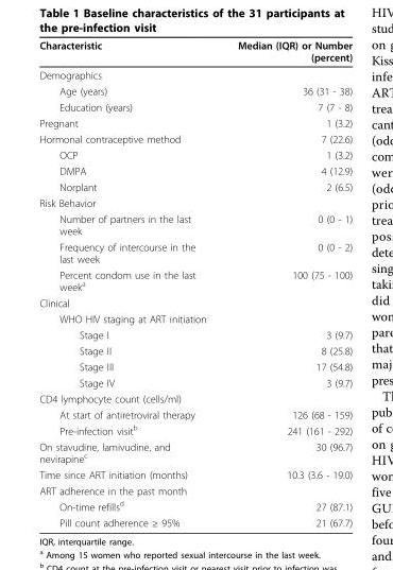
<table><thead><tr><td>Characteristic</td><td>Median (IQR) or Number (percent)</td></tr></thead><tbody><tr><td colspan="2">Demographics</td></tr><tr><td>Age (years)</td><td>36 (31 - 38)</td></tr><tr><td>Education (years)</td><td>7 (7 - 8)</td></tr><tr><td>Pregnant</td><td>1 (3.2)</td></tr><tr><td>Hormonal contraceptive method</td><td>7 (22.6)</td></tr><tr><td>OCP</td><td>1 (3.2)</td></tr><tr><td>DMPA</td><td>4 (12.9)</td></tr><tr><td>Norplant</td><td>2 (6.5)</td></tr><tr><td colspan="2">Risk Behavior</td></tr><tr><td>Number of partners in the last week</td><td>0 (0 - 1)</td></tr><tr><td>Frequency of intercourse in the last week</td><td>0 (0 - 2)</td></tr><tr><td>Percent condom use in the last week<sup>a</sup></td><td>100 (75 - 100)</td></tr><tr><td colspan="2">Clinical</td></tr><tr><td colspan="2">WHO HIV staging at ART initiation</td></tr><tr><td>Stage I</td><td>3 (9.7)</td></tr><tr><td>Stage II</td><td>8 (25.8)</td></tr><tr><td>Stage III</td><td>17 (54.8)</td></tr><tr><td>Stage IV</td><td>3 (9.7)</td></tr><tr><td colspan="2">CD4 lymphocyte count (cells/ml)</td></tr><tr><td>At start of antiretroviral therapy</td><td>126 (68 - 159)</td></tr><tr><td>Pre-infection visit<sup>b</sup></td><td>241 (161 - 292)</td></tr><tr><td>On stavudine, lamivudine, and nevirapine<sup>c</sup></td><td>30 (96.7)</td></tr><tr><td>Time since ART initiation (months)</td><td>10.3 (3.6 - 19.0)</td></tr><tr><td colspan="2">ART adherence in the past month</td></tr><tr><td>On-time refills<sup>d</sup></td><td>27 (87.1)</td></tr><tr><td>Pill count adherence ≥ 95%</td><td>21 (67.7)</td></tr></tbody></table>